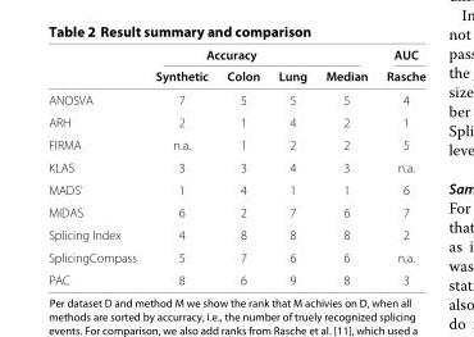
<table><thead><tr><td rowspan="2"></td><td colspan="3">Accuracy</td><td rowspan="2">Median</td><td rowspan="2">AUC Rasche</td></tr><tr><td>Synthetic</td><td>Colon</td><td>Lung</td></tr></thead><tbody><tr><td>ANOSVA</td><td>7</td><td>5</td><td>5</td><td>5</td><td>4</td></tr><tr><td>ARH</td><td>2</td><td>1</td><td>4</td><td>2</td><td>1</td></tr><tr><td>FIRMA</td><td>n.a.</td><td>1</td><td>2</td><td>2</td><td>5</td></tr><tr><td>KLAS</td><td>3</td><td>3</td><td>4</td><td>3</td><td>n.a.</td></tr><tr><td>MADS’</td><td>1</td><td>4</td><td>1</td><td>1</td><td>6</td></tr><tr><td>MIDAS</td><td>6</td><td>2</td><td>7</td><td>6</td><td>7</td></tr><tr><td>Splicing Index</td><td>4</td><td>8</td><td>8</td><td>8</td><td>2</td></tr><tr><td>SplicingCompass</td><td>5</td><td>7</td><td>6</td><td>6</td><td>n.a.</td></tr><tr><td>PAC</td><td>8</td><td>6</td><td>9</td><td>8</td><td>3</td></tr></tbody></table>